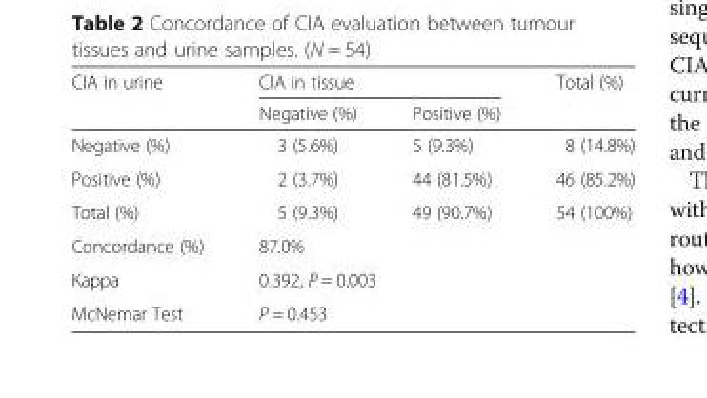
<table><thead><tr><td rowspan="2">CIA in urine</td><td colspan="2">CIA in tissue</td><td rowspan="2">Total (%)</td></tr><tr><td>Negative (%)</td><td>Positive (%)</td></tr></thead><tbody><tr><td>Negative (%)</td><td>3 (5.6%)</td><td>5 (9.3%)</td><td>8 (14.8%)</td></tr><tr><td>Positive (%)</td><td>2 (3.7%)</td><td>44 (81.5%)</td><td>46 (85.2%)</td></tr><tr><td>Total (%)</td><td>5 (9.3%)</td><td>49 (90.7%)</td><td>54 (100%)</td></tr><tr><td>Concordance (%)</td><td colspan="2">87.0%</td><td rowspan="3"></td></tr><tr><td>Kappa</td><td colspan="2">0.392, P = 0.003</td></tr><tr><td>McNemar Test</td><td colspan="2">P = 0.453</td></tr></tbody></table>